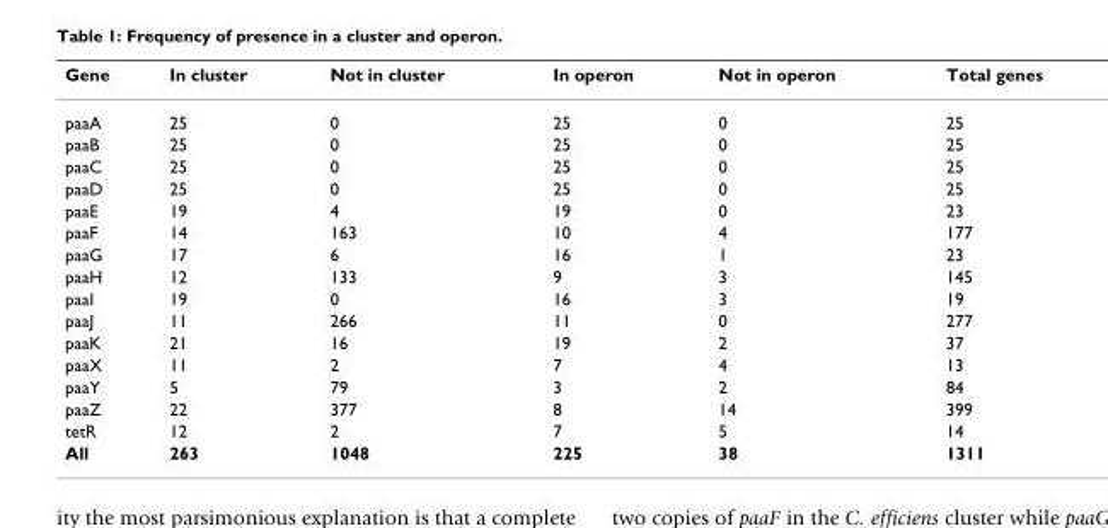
<table><thead><tr><td>Gene</td><td>In cluster</td><td>Not in cluster</td><td>In operon</td><td>Not in operon</td><td>Total genes</td></tr></thead><tbody><tr><td>paaA</td><td>25</td><td>0</td><td>25</td><td>0</td><td>25</td></tr><tr><td>paaB</td><td>25</td><td>0</td><td>25</td><td>0</td><td>25</td></tr><tr><td>paaC</td><td>25</td><td>0</td><td>25</td><td>0</td><td>25</td></tr><tr><td>paaD</td><td>25</td><td>0</td><td>25</td><td>0</td><td>25</td></tr><tr><td>paaE</td><td>19</td><td>4</td><td>19</td><td>0</td><td>23</td></tr><tr><td>paaF</td><td>14</td><td>163</td><td>10</td><td>4</td><td>177</td></tr><tr><td>paaG</td><td>17</td><td>6</td><td>16</td><td>1</td><td>23</td></tr><tr><td>paaH</td><td>12</td><td>133</td><td>9</td><td>3</td><td>145</td></tr><tr><td>paaI</td><td>19</td><td>0</td><td>16</td><td>3</td><td>19</td></tr><tr><td>paaJ</td><td>11</td><td>266</td><td>11</td><td>0</td><td>277</td></tr><tr><td>paaK</td><td>21</td><td>16</td><td>19</td><td>2</td><td>37</td></tr><tr><td>paaX</td><td>11</td><td>2</td><td>7</td><td>4</td><td>13</td></tr><tr><td>paaY</td><td>5</td><td>79</td><td>3</td><td>2</td><td>84</td></tr><tr><td>paaZ</td><td>22</td><td>377</td><td>8</td><td>14</td><td>399</td></tr><tr><td>tetR</td><td>12</td><td>2</td><td>7</td><td>5</td><td>14</td></tr><tr><td>All</td><td>263</td><td>1048</td><td>225</td><td>38</td><td>1311</td></tr></tbody></table>